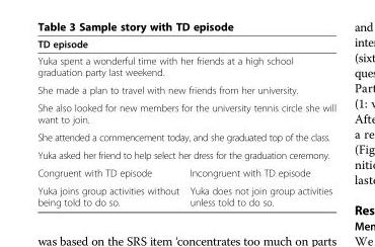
<table><thead><tr><td colspan="2">TD episode</td></tr></thead><tbody><tr><td colspan="2">Yuka spent a wonderful time with her friends at a high school graduation party last weekend.</td></tr><tr><td colspan="2">She made a plan to travel with new friends from her university.</td></tr><tr><td colspan="2">She also looked for new members for the university tennis circle she will want to join.</td></tr><tr><td colspan="2">She attended a commencement today, and she graduated top of the class.</td></tr><tr><td colspan="2">Yuka asked her friend to help select her dress for the graduation ceremony.</td></tr><tr><td>Congruent with TD episode</td><td>Incongruent with TD episode</td></tr><tr><td>Yuka joins group activities without being told to do so.</td><td>Yuka does not join group activities unless told to do so.</td></tr></tbody></table>